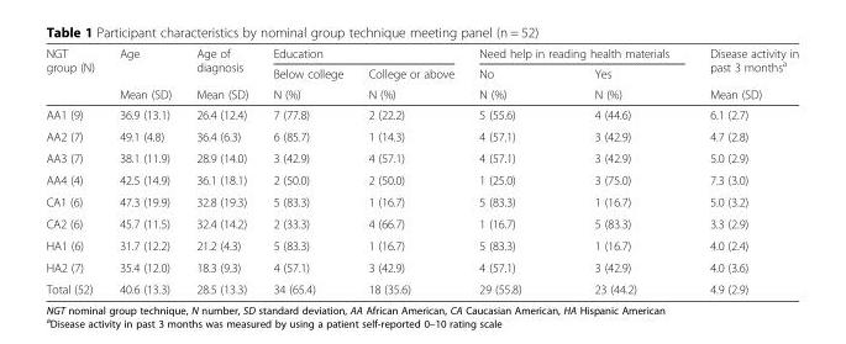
<table><thead><tr><td rowspan="3">NGT group (N)</td><td rowspan="3">Age Mean (SD)</td><td rowspan="3">Age of diagnosis Mean (SD)</td><td colspan="2">Education</td><td colspan="2">Need help in reading health materials</td><td rowspan="3">Disease activity in past 3 months<sup>a</sup> Mean (SD)</td></tr><tr><td rowspan="2">Below college N (%)</td><td rowspan="2">College or above N (%)</td><td rowspan="2">No N (%)</td><td rowspan="2">Yes N (%)</td></tr><tr></tr></thead><tbody><tr><td>AA1 (9)</td><td>36.9 (13.1)</td><td>26.4 (12.4)</td><td>7 (77.8)</td><td>2 (22.2)</td><td>5 (55.6)</td><td>4 (44.6)</td><td>6.1 (2.7)</td></tr><tr><td>AA2 (7)</td><td>49.1 (4.8)</td><td>36.4 (6.3)</td><td>6 (85.7)</td><td>1 (14.3)</td><td>4 (57.1)</td><td>3 (42.9)</td><td>4.7 (2.8)</td></tr><tr><td>AA3 (7)</td><td>38.1 (11.9)</td><td>28.9 (14.0)</td><td>3 (42.9)</td><td>4 (57.1)</td><td>4 (57.1)</td><td>3 (42.9)</td><td>5.0 (2.9)</td></tr><tr><td>AA4 (4)</td><td>42.5 (14.9)</td><td>36.1 (18.1)</td><td>2 (50.0)</td><td>2 (50.0)</td><td>1 (25.0)</td><td>3 (75.0)</td><td>7.3 (3.0)</td></tr><tr><td>CA1 (6)</td><td>47.3 (19.9)</td><td>32.8 (19.3)</td><td>5 (83.3)</td><td>1 (16.7)</td><td>5 (83.3)</td><td>1 (16.7)</td><td>5.0 (3.2)</td></tr><tr><td>CA2 (6)</td><td>45.7 (11.5)</td><td>32.4 (14.2)</td><td>2 (33.3)</td><td>4 (66.7)</td><td>1 (16.7)</td><td>5 (83.3)</td><td>3.3 (2.9)</td></tr><tr><td>HA1 (6)</td><td>31.7 (12.2)</td><td>21.2 (4.3)</td><td>5 (83.3)</td><td>1 (16.7)</td><td>5 (83.3)</td><td>1 (16.7)</td><td>4.0 (2.4)</td></tr><tr><td>HA2 (7)</td><td>35.4 (12.0)</td><td>18.3 (9.3)</td><td>4 (57.1)</td><td>3 (42.9)</td><td>4 (57.1)</td><td>3 (42.9)</td><td>4.0 (3.6)</td></tr><tr><td>Total (52)</td><td>40.6 (13.3)</td><td>28.5 (13.3)</td><td>34 (65.4)</td><td>18 (35.6)</td><td>29 (55.8)</td><td>23 (44.2)</td><td>4.9 (2.9)</td></tr></tbody></table>